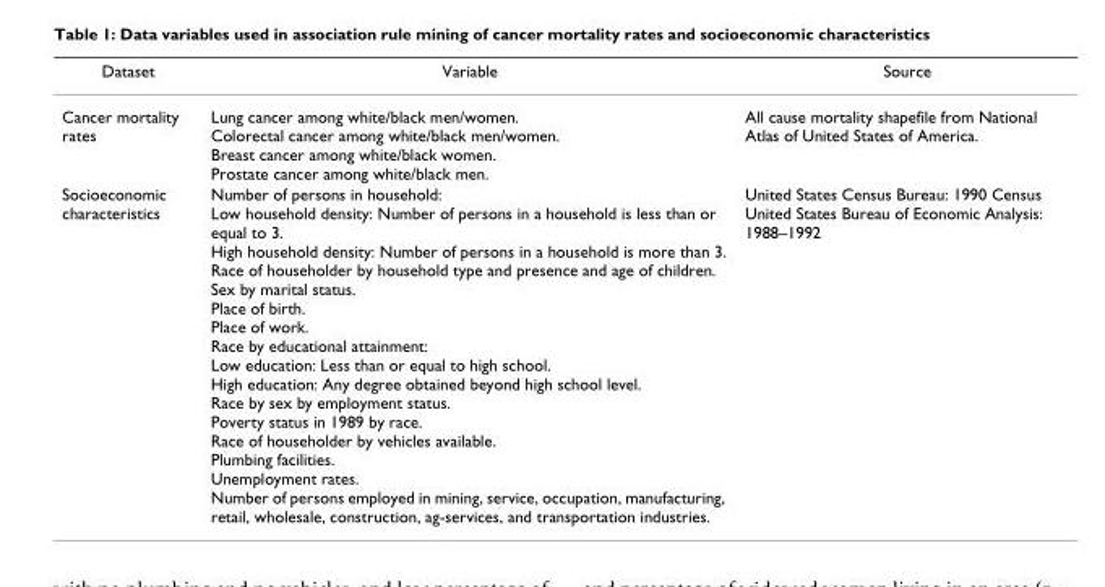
<table><thead><tr><td>Dataset</td><td>Variable</td><td>Source</td></tr></thead><tbody><tr><td>Cancer mortality rates</td><td>Lung cancer among white/black men/women. Colorectal cancer among white/black men/women. Breast cancer among white/black women. Prostate cancer among white/black men.</td><td>All cause mortality shapefile from National Atlas of United States of America.</td></tr><tr><td>Socioeconomic characteristics</td><td>Number of persons in household: Low household density: Number of persons in a household is less than or equal to 3. High household density: Number of persons in a household is more than 3. Race of householder by household type and presence and age of children. Sex by marital status. Place of birth. Place of work. Race by educational attainment: Low education: Less than or equal to high school. High education: Any degree obtained beyond high school level. Race by sex by employment status. Poverty status in 1989 by race. Race of householder by vehicles available. Plumbing facilities. Unemployment rates. Number of persons employed in mining, service, occupation, manufacturing, retail, wholesale, construction, ag-services, and transportation industries.</td><td>United States Census Bureau: 1990 Census United States Bureau of Economic Analysis: 1988–1992</td></tr></tbody></table>